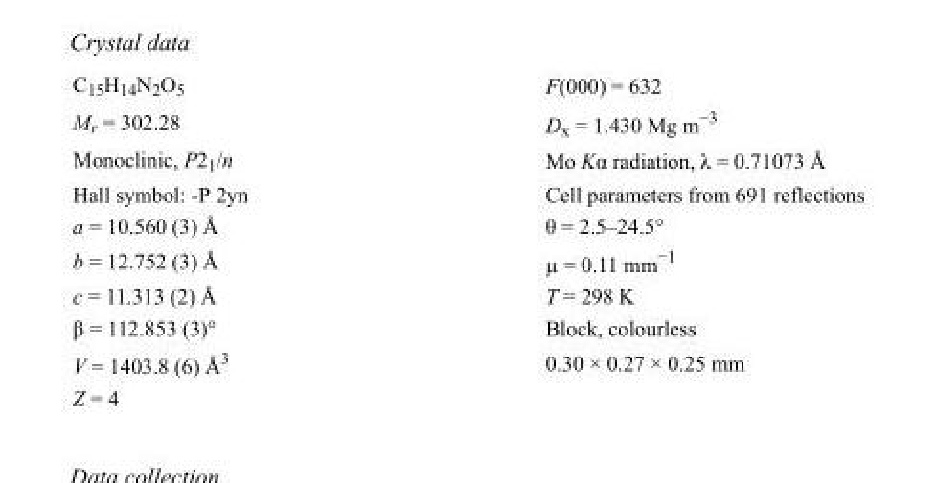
<table><tbody><tr><td>C<sub>15</sub>H<sub>14</sub>N<sub>2</sub>O<sub>5</sub></td><td>F(000) = 632</td></tr><tr><td>M<sub>r</sub> = 302.28</td><td>D<sub>x</sub> = 1.430 Mg m<sup>−3</sup></td></tr><tr><td>Monoclinic, P2<sub>1</sub>/n</td><td>Mo Kα radiation, λ = 0.71073 Å</td></tr><tr><td>Hall symbol: -P 2yn</td><td>Cell parameters from 691 reflections</td></tr><tr><td>a = 10.560 (3) Å</td><td>θ = 2.5–24.5°</td></tr><tr><td>b = 12.752 (3) Å</td><td>µ = 0.11 mm<sup>−1</sup></td></tr><tr><td>c = 11.313 (2) Å</td><td>T = 298 K</td></tr><tr><td>β = 112.853 (3)°</td><td>Block, colourless</td></tr><tr><td>V = 1403.8 (6) Å<sup>3</sup></td><td>0.30 × 0.27 × 0.25 mm</td></tr><tr><td>Z = 4</td><td></td></tr></tbody></table>